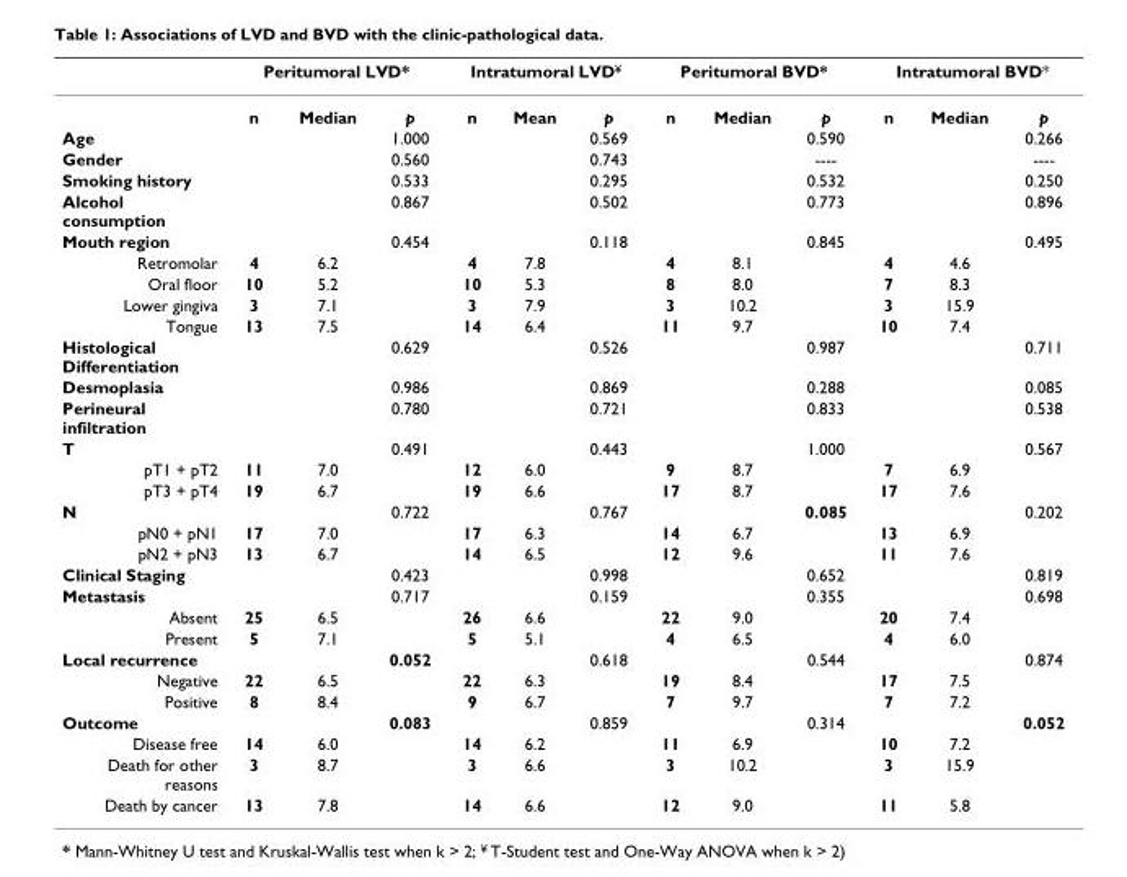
<table><thead><tr><td rowspan="2"></td><td colspan="3">Peritumoral LVD*</td><td colspan="3">Intratumoral LVD<sup>¥</sup></td><td colspan="3">Peritumoral BVD*</td><td colspan="3">Intratumoral BVD*</td></tr><tr><td>n</td><td>Median</td><td>p</td><td>n</td><td>Mean</td><td>p</td><td>n</td><td>Median</td><td>p</td><td>n</td><td>Median</td><td>p</td></tr></thead><tbody><tr><td>Age</td><td></td><td></td><td>1.000</td><td></td><td></td><td>0.569</td><td></td><td></td><td>0.590</td><td></td><td></td><td>0.266</td></tr><tr><td>Gender</td><td></td><td></td><td>0.560</td><td></td><td></td><td>0.743</td><td></td><td></td><td>----</td><td></td><td></td><td>----</td></tr><tr><td>Smoking history</td><td></td><td></td><td>0.533</td><td></td><td></td><td>0.295</td><td></td><td></td><td>0.532</td><td></td><td></td><td>0.250</td></tr><tr><td>Alcohol consumption</td><td></td><td></td><td>0.867</td><td></td><td></td><td>0.502</td><td></td><td></td><td>0.773</td><td></td><td></td><td>0.896</td></tr><tr><td>Mouth region</td><td></td><td></td><td>0.454</td><td></td><td></td><td>0.118</td><td></td><td></td><td>0.845</td><td></td><td></td><td>0.495</td></tr><tr><td>Retromolar</td><td>4</td><td>6.2</td><td></td><td>4</td><td>7.8</td><td></td><td>4</td><td>8.1</td><td></td><td>4</td><td>4.6</td><td></td></tr><tr><td>Oral floor</td><td>10</td><td>5.2</td><td></td><td>10</td><td>5.3</td><td></td><td>8</td><td>8.0</td><td></td><td>7</td><td>8.3</td><td></td></tr><tr><td>Lower gingiva</td><td>3</td><td>7.1</td><td></td><td>3</td><td>7.9</td><td></td><td>3</td><td>10.2</td><td></td><td>3</td><td>15.9</td><td></td></tr><tr><td>Tongue</td><td>13</td><td>7.5</td><td></td><td>14</td><td>6.4</td><td></td><td>11</td><td>9.7</td><td></td><td>10</td><td>7.4</td><td></td></tr><tr><td>Histological Differentiation</td><td></td><td></td><td>0.629</td><td></td><td></td><td>0.526</td><td></td><td></td><td>0.987</td><td></td><td></td><td>0.711</td></tr><tr><td>Desmoplasia</td><td></td><td></td><td>0.986</td><td></td><td></td><td>0.869</td><td></td><td></td><td>0.288</td><td></td><td></td><td>0.085</td></tr><tr><td>Perineural infiltration</td><td></td><td></td><td>0.780</td><td></td><td></td><td>0.721</td><td></td><td></td><td>0.833</td><td></td><td></td><td>0.538</td></tr><tr><td>T</td><td></td><td></td><td>0.491</td><td></td><td></td><td>0.443</td><td></td><td></td><td>1.000</td><td></td><td></td><td>0.567</td></tr><tr><td>pT1 + pT2</td><td>11</td><td>7.0</td><td></td><td>12</td><td>6.0</td><td></td><td>9</td><td>8.7</td><td></td><td>7</td><td>6.9</td><td></td></tr><tr><td>pT3 + pT4</td><td>19</td><td>6.7</td><td></td><td>19</td><td>6.6</td><td></td><td>17</td><td>8.7</td><td></td><td>17</td><td>7.6</td><td></td></tr><tr><td>N</td><td></td><td></td><td>0.722</td><td></td><td></td><td>0.767</td><td></td><td></td><td>0.085</td><td></td><td></td><td>0.202</td></tr><tr><td>pN0 + pN1</td><td>17</td><td>7.0</td><td></td><td>17</td><td>6.3</td><td></td><td>14</td><td>6.7</td><td></td><td>13</td><td>6.9</td><td></td></tr><tr><td>pN2 + pN3</td><td>13</td><td>6.7</td><td></td><td>14</td><td>6.5</td><td></td><td>12</td><td>9.6</td><td></td><td>11</td><td>7.6</td><td></td></tr><tr><td>Clinical Staging</td><td></td><td></td><td>0.423</td><td></td><td></td><td>0.998</td><td></td><td></td><td>0.652</td><td></td><td></td><td>0.819</td></tr><tr><td>Metastasis</td><td></td><td></td><td>0.717</td><td></td><td></td><td>0.159</td><td></td><td></td><td>0.355</td><td></td><td></td><td>0.698</td></tr><tr><td>Absent</td><td>25</td><td>6.5</td><td></td><td>26</td><td>6.6</td><td></td><td>22</td><td>9.0</td><td></td><td>20</td><td>7.4</td><td></td></tr><tr><td>Present</td><td>5</td><td>7.1</td><td></td><td>5</td><td>5.1</td><td></td><td>4</td><td>6.5</td><td></td><td>4</td><td>6.0</td><td></td></tr><tr><td>Local recurrence</td><td></td><td></td><td>0.052</td><td></td><td></td><td>0.618</td><td></td><td></td><td>0.544</td><td></td><td></td><td>0.874</td></tr><tr><td>Negative</td><td>22</td><td>6.5</td><td></td><td>22</td><td>6.3</td><td></td><td>19</td><td>8.4</td><td></td><td>17</td><td>7.5</td><td></td></tr><tr><td>Positive</td><td>8</td><td>8.4</td><td></td><td>9</td><td>6.7</td><td></td><td>7</td><td>9.7</td><td></td><td>7</td><td>7.2</td><td></td></tr><tr><td>Outcome</td><td></td><td></td><td>0.083</td><td></td><td></td><td>0.859</td><td></td><td></td><td>0.314</td><td></td><td></td><td>0.052</td></tr><tr><td>Disease free</td><td>14</td><td>6.0</td><td></td><td>14</td><td>6.2</td><td></td><td>11</td><td>6.9</td><td></td><td>10</td><td>7.2</td><td></td></tr><tr><td>Death for other reasons</td><td>3</td><td>8.7</td><td></td><td>3</td><td>6.6</td><td></td><td>3</td><td>10.2</td><td></td><td>3</td><td>15.9</td><td></td></tr><tr><td>Death by cancer</td><td>13</td><td>7.8</td><td></td><td>14</td><td>6.6</td><td></td><td>12</td><td>9.0</td><td></td><td>11</td><td>5.8</td><td></td></tr></tbody></table>